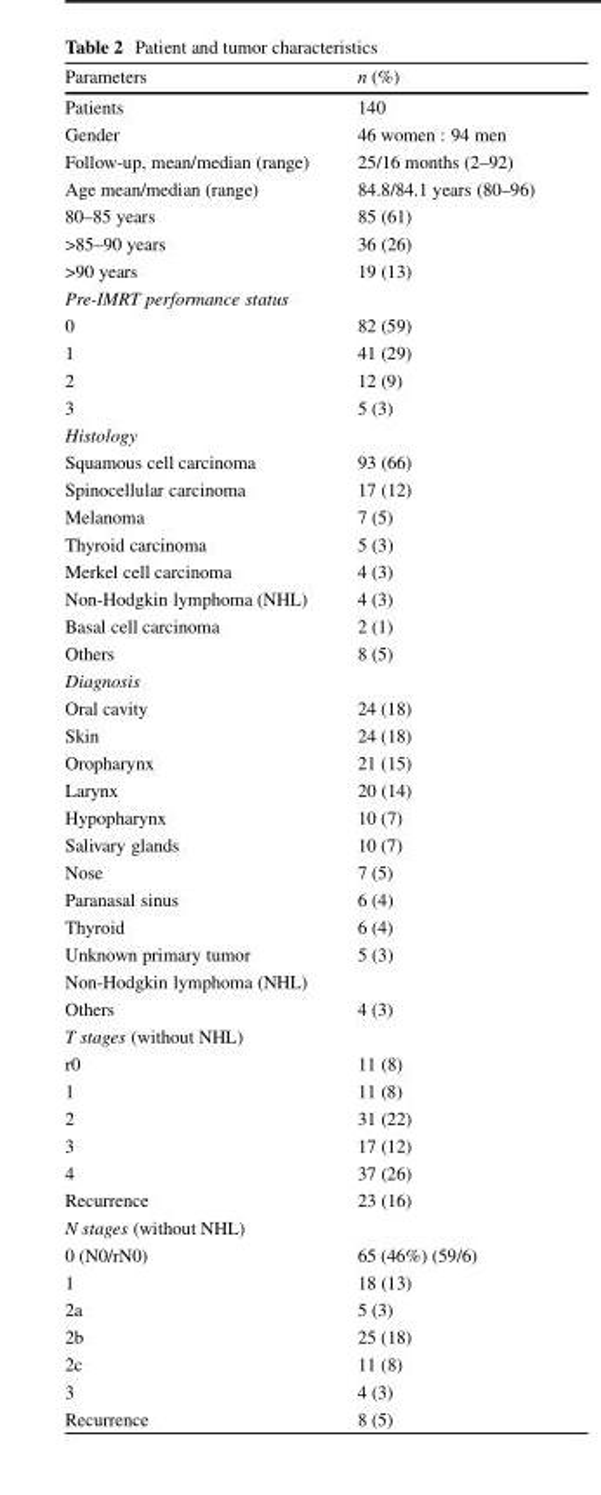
<table><thead><tr><td>Parameters</td><td>n (%)</td></tr></thead><tbody><tr><td>Patients</td><td>140</td></tr><tr><td>Gender</td><td>46 women : 94 men</td></tr><tr><td>Follow-up, mean/median (range)</td><td>25/16 months (2–92)</td></tr><tr><td>Age mean/median (range)</td><td>84.8/84.1 years (80–96)</td></tr><tr><td>80–85 years</td><td>85 (61)</td></tr><tr><td>&gt;85–90 years</td><td>36 (26)</td></tr><tr><td>&gt;90 years</td><td>19 (13)</td></tr><tr><td colspan="2">Pre-IMRT performance status</td></tr><tr><td>0</td><td>82 (59)</td></tr><tr><td>1</td><td>41 (29)</td></tr><tr><td>2</td><td>12 (9)</td></tr><tr><td>3</td><td>5 (3)</td></tr><tr><td colspan="2">Histology</td></tr><tr><td>Squamous cell carcinoma</td><td>93 (66)</td></tr><tr><td>Spinocellular carcinoma</td><td>17 (12)</td></tr><tr><td>Melanoma</td><td>7 (5)</td></tr><tr><td>Thyroid carcinoma</td><td>5 (3)</td></tr><tr><td>Merkel cell carcinoma</td><td>4 (3)</td></tr><tr><td>Non-Hodgkin lymphoma (NHL)</td><td>4 (3)</td></tr><tr><td>Basal cell carcinoma</td><td>2 (1)</td></tr><tr><td>Others</td><td>8 (5)</td></tr><tr><td colspan="2">Diagnosis</td></tr><tr><td>Oral cavity</td><td>24 (18)</td></tr><tr><td>Skin</td><td>24 (18)</td></tr><tr><td>Oropharynx</td><td>21 (15)</td></tr><tr><td>Larynx</td><td>20 (14)</td></tr><tr><td>Hypopharynx</td><td>10 (7)</td></tr><tr><td>Salivary glands</td><td>10 (7)</td></tr><tr><td>Nose</td><td>7 (5)</td></tr><tr><td>Paranasal sinus</td><td>6 (4)</td></tr><tr><td>Thyroid</td><td>6 (4)</td></tr><tr><td>Unknown primary tumor</td><td>5 (3)</td></tr><tr><td colspan="2">Non-Hodgkin lymphoma (NHL)</td></tr><tr><td>Others</td><td>4 (3)</td></tr><tr><td colspan="2">T stages (without NHL)</td></tr><tr><td>r0</td><td>11 (8)</td></tr><tr><td>1</td><td>11 (8)</td></tr><tr><td>2</td><td>31 (22)</td></tr><tr><td>3</td><td>17 (12)</td></tr><tr><td>4</td><td>37 (26)</td></tr><tr><td>Recurrence</td><td>23 (16)</td></tr><tr><td colspan="2">N stages (without NHL)</td></tr><tr><td>0 (N0/rN0)</td><td>65 (46%) (59/6)</td></tr><tr><td>1</td><td>18 (13)</td></tr><tr><td>2a</td><td>5 (3)</td></tr><tr><td>2b</td><td>25 (18)</td></tr><tr><td>2c</td><td>11 (8)</td></tr><tr><td>3</td><td>4 (3)</td></tr><tr><td>Recurrence</td><td>8 (5)</td></tr></tbody></table>